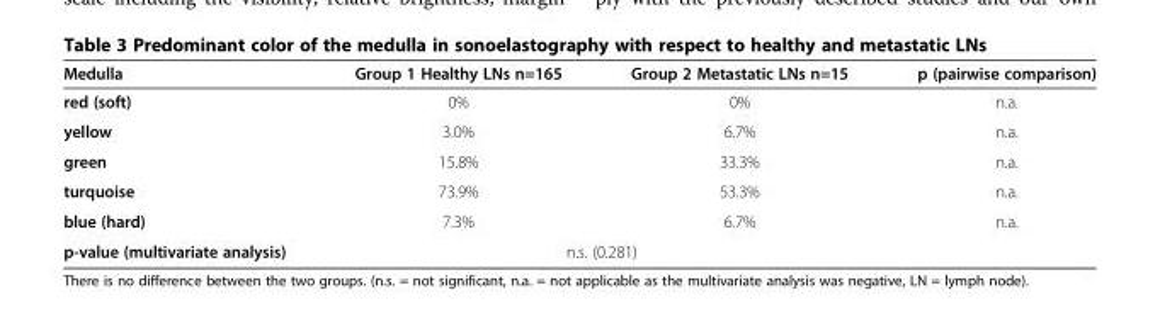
<table><thead><tr><td>Medulla</td><td>Group 1 Healthy LNs n=165</td><td>Group 2 Metastatic LNs n=15</td><td>p (pairwise comparison)</td></tr></thead><tbody><tr><td>red (soft)</td><td>0%</td><td>0%</td><td>n.a.</td></tr><tr><td>yellow</td><td>3.0%</td><td>6.7%</td><td>n.a.</td></tr><tr><td>green</td><td>15.8%</td><td>33.3%</td><td>n.a.</td></tr><tr><td>turquoise</td><td>73.9%</td><td>53.3%</td><td>n.a.</td></tr><tr><td>blue (hard)</td><td>7.3%</td><td>6.7%</td><td>n.a.</td></tr><tr><td>p-value (multivariate analysis)</td><td colspan="2">n.s. (0.281)</td><td></td></tr></tbody></table>